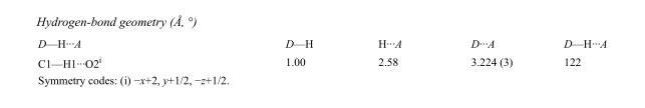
<table><tbody><tr><td>D—H···A</td><td>D—H</td><td>H···A</td><td>D···A</td><td>D—H···A</td></tr><tr><td>C1—H1···O2<sup>i</sup></td><td>1.00</td><td>2.58</td><td>3.224 (3)</td><td>122</td></tr></tbody></table>